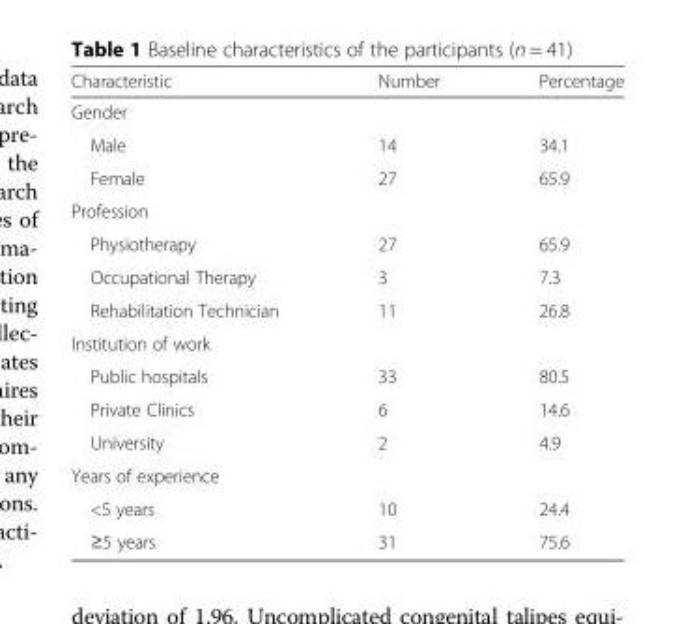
<table><thead><tr><td>Characteristic</td><td>Number</td><td>Percentage</td></tr></thead><tbody><tr><td colspan="3">Gender</td></tr><tr><td>Male</td><td>14</td><td>34.1</td></tr><tr><td>Female</td><td>27</td><td>65.9</td></tr><tr><td colspan="3">Profession</td></tr><tr><td>Physiotherapy</td><td>27</td><td>65.9</td></tr><tr><td>Occupational Therapy</td><td>3</td><td>7.3</td></tr><tr><td>Rehabilitation Technician</td><td>11</td><td>26.8</td></tr><tr><td colspan="3">Institution of work</td></tr><tr><td>Public hospitals</td><td>33</td><td>80.5</td></tr><tr><td>Private Clinics</td><td>6</td><td>14.6</td></tr><tr><td>University</td><td>2</td><td>4.9</td></tr><tr><td colspan="3">Years of experience</td></tr><tr><td>&lt;5 years</td><td>10</td><td>24.4</td></tr><tr><td>≥5 years</td><td>31</td><td>75.6</td></tr></tbody></table>